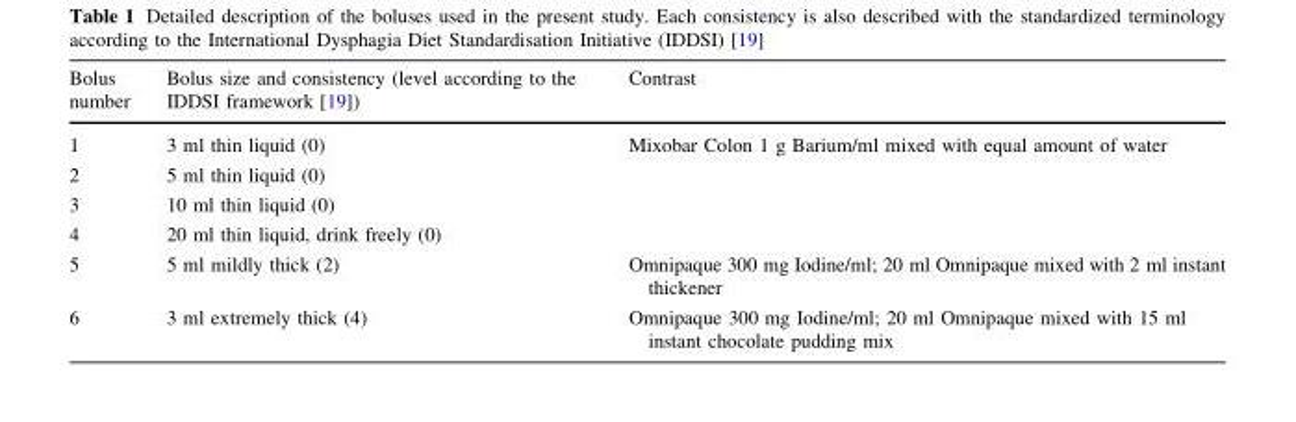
<table><thead><tr><td>Bolus number</td><td>Bolus size and consistency (level according to the IDDSI framework [19])</td><td>Contrast</td></tr></thead><tbody><tr><td>1</td><td>3 ml thin liquid (0)</td><td rowspan="4">Mixobar Colon 1 g Barium/ml mixed with equal amount of water</td></tr><tr><td>2</td><td>5 ml thin liquid (0)</td></tr><tr><td>3</td><td>10 ml thin liquid (0)</td></tr><tr><td>4</td><td>20 ml thin liquid, drink freely (0)</td></tr><tr><td>5</td><td>5 ml mildly thick (2)</td><td>Omnipaque 300 mg Iodine/ml; 20 ml Omnipaque mixed with 2 ml instant thickener</td></tr><tr><td>6</td><td>3 ml extremely thick (4)</td><td>Omnipaque 300 mg Iodine/ml; 20 ml Omnipaque mixed with 15 ml instant chocolate pudding mix</td></tr></tbody></table>